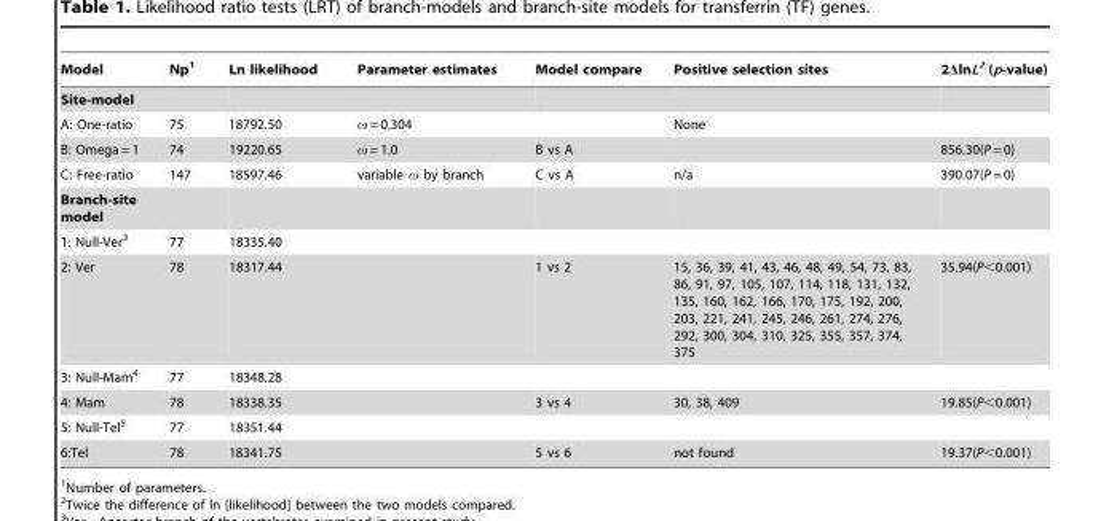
<table><thead><tr><td>Model</td><td>Np<sup>1</sup></td><td>Ln likelihood</td><td>Parameter estimates</td><td>Model compare</td><td>Positive selection sites</td><td>2ΔlnL2 (p-value)</td></tr></thead><tbody><tr><td colspan="7">Site-model</td></tr><tr><td>A: One-ratio</td><td>75</td><td>18792.50</td><td>ω = 0.304</td><td></td><td>None</td><td></td></tr><tr><td>B: Omega = 1</td><td>74</td><td>19220.65</td><td>ω = 1.0</td><td>B vs A</td><td></td><td>856.30(P = 0)</td></tr><tr><td>C: Free-ratio</td><td>147</td><td>18597.46</td><td>variable ω by branch</td><td>C vs A</td><td>n/a</td><td>390.07(P = 0)</td></tr><tr><td colspan="7">Branch-site model</td></tr><tr><td>1: Null-Ver<sup>3</sup></td><td>77</td><td>18335.40</td><td></td><td></td><td></td><td></td></tr><tr><td>2: Ver</td><td>78</td><td>18317.44</td><td></td><td>1 vs 2</td><td>15, 36, 39, 41, 43, 46, 48, 49, 54, 73, 83, 86, 91, 97, 105, 107, 114, 118, 131, 132, 135, 160, 162, 166, 170, 175, 192, 200, 203, 221, 241, 245, 246, 261, 274, 276, 292, 300, 304, 310, 325, 355, 357, 374, 375</td><td>35.94(P&lt;0.001)</td></tr><tr><td>3: Null-Mam<sup>4</sup></td><td>77</td><td>18348.28</td><td></td><td></td><td></td><td></td></tr><tr><td>4: Mam</td><td>78</td><td>18338.35</td><td></td><td>3 vs 4</td><td>30, 38, 409</td><td>19.85(P&lt;0.001)</td></tr><tr><td>5: Null-Tel<sup>5</sup></td><td>77</td><td>18351.44</td><td></td><td></td><td></td><td></td></tr><tr><td>6:Tel</td><td>78</td><td>18341.75</td><td></td><td>5 vs 6</td><td>not found</td><td>19.37(P&lt;0.001)</td></tr></tbody></table>